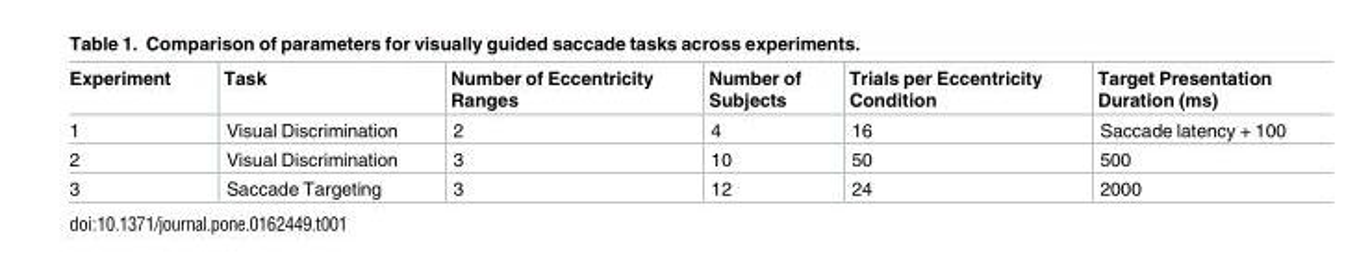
<table><thead><tr><td>Experiment</td><td>Task</td><td>Number of Eccentricity Ranges</td><td>Number of Subjects</td><td>Trials per Eccentricity Condition</td><td>Target Presentation Duration (ms)</td></tr></thead><tbody><tr><td>1</td><td>Visual Discrimination</td><td>2</td><td>4</td><td>16</td><td>Saccade latency + 100</td></tr><tr><td>2</td><td>Visual Discrimination</td><td>3</td><td>10</td><td>50</td><td>500</td></tr><tr><td>3</td><td>Saccade Targeting</td><td>3</td><td>12</td><td>24</td><td>2000</td></tr></tbody></table>